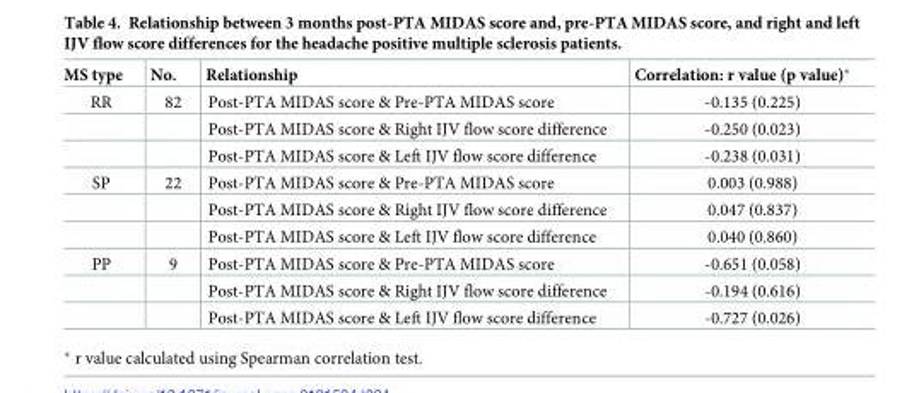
<table><thead><tr><td>MS type</td><td>No.</td><td>Relationship</td><td>Correlation: r value (p value)*</td></tr></thead><tbody><tr><td rowspan="3">RR</td><td>82</td><td>Post-PTA MIDAS score &amp; Pre-PTA MIDAS score</td><td>-0.135 (0.225)</td></tr><tr><td></td><td>Post-PTA MIDAS score &amp; Right IJV flow score difference</td><td>-0.250 (0.023)</td></tr><tr><td></td><td>Post-PTA MIDAS score &amp; Left IJV flow score difference</td><td>-0.238 (0.031)</td></tr><tr><td rowspan="3">SP</td><td>22</td><td>Post-PTA MIDAS score &amp; Pre-PTA MIDAS score</td><td>0.003 (0.988)</td></tr><tr><td></td><td>Post-PTA MIDAS score &amp; Right IJV flow score difference</td><td>0.047 (0.837)</td></tr><tr><td></td><td>Post-PTA MIDAS score &amp; Left IJV flow score difference</td><td>0.040 (0.860)</td></tr><tr><td rowspan="3">PP</td><td>9</td><td>Post-PTA MIDAS score &amp; Pre-PTA MIDAS score</td><td>-0.651 (0.058)</td></tr><tr><td></td><td>Post-PTA MIDAS score &amp; Right IJV flow score difference</td><td>-0.194 (0.616)</td></tr><tr><td></td><td>Post-PTA MIDAS score &amp; Left IJV flow score difference</td><td>-0.727 (0.026)</td></tr></tbody></table>